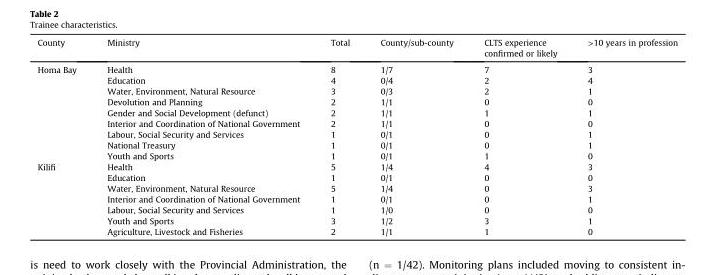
<table><thead><tr><td>County</td><td>Ministry</td><td>Total</td><td>County/sub-county</td><td>CLTS experience confirmed or likely</td><td>&gt;10 years in profession</td></tr></thead><tbody><tr><td rowspan="9">Homa Bay</td><td>Health</td><td>8</td><td>1/7</td><td>7</td><td>3</td></tr><tr><td>Education</td><td>4</td><td>0/4</td><td>2</td><td>4</td></tr><tr><td>Water, Environment, Natural Resource</td><td>3</td><td>0/3</td><td>2</td><td>1</td></tr><tr><td>Devolution and Planning</td><td>2</td><td>1/1</td><td>0</td><td>0</td></tr><tr><td>Gender and Social Development (defunct)</td><td>2</td><td>1/1</td><td>1</td><td>1</td></tr><tr><td>Interior and Coordination of National Government</td><td>2</td><td>1/1</td><td>0</td><td>0</td></tr><tr><td>Labour, Social Security and Services</td><td>1</td><td>0/1</td><td>0</td><td>1</td></tr><tr><td>National Treasury</td><td>1</td><td>0/1</td><td>0</td><td>1</td></tr><tr><td>Youth and Sports</td><td>1</td><td>0/1</td><td>1</td><td>0</td></tr><tr><td rowspan="7">Kilifi</td><td>Health</td><td>5</td><td>1/4</td><td>4</td><td>3</td></tr><tr><td>Education</td><td>1</td><td>0/1</td><td>0</td><td>0</td></tr><tr><td>Water, Environment, Natural Resource</td><td>5</td><td>1/4</td><td>0</td><td>3</td></tr><tr><td>Interior and Coordination of National Government</td><td>1</td><td>0/1</td><td>0</td><td>1</td></tr><tr><td>Labour, Social Security and Services</td><td>1</td><td>1/0</td><td>0</td><td>0</td></tr><tr><td>Youth and Sports</td><td>3</td><td>1/2</td><td>3</td><td>1</td></tr><tr><td>Agriculture, Livestock and Fisheries</td><td>2</td><td>1/1</td><td>1</td><td>0</td></tr></tbody></table>